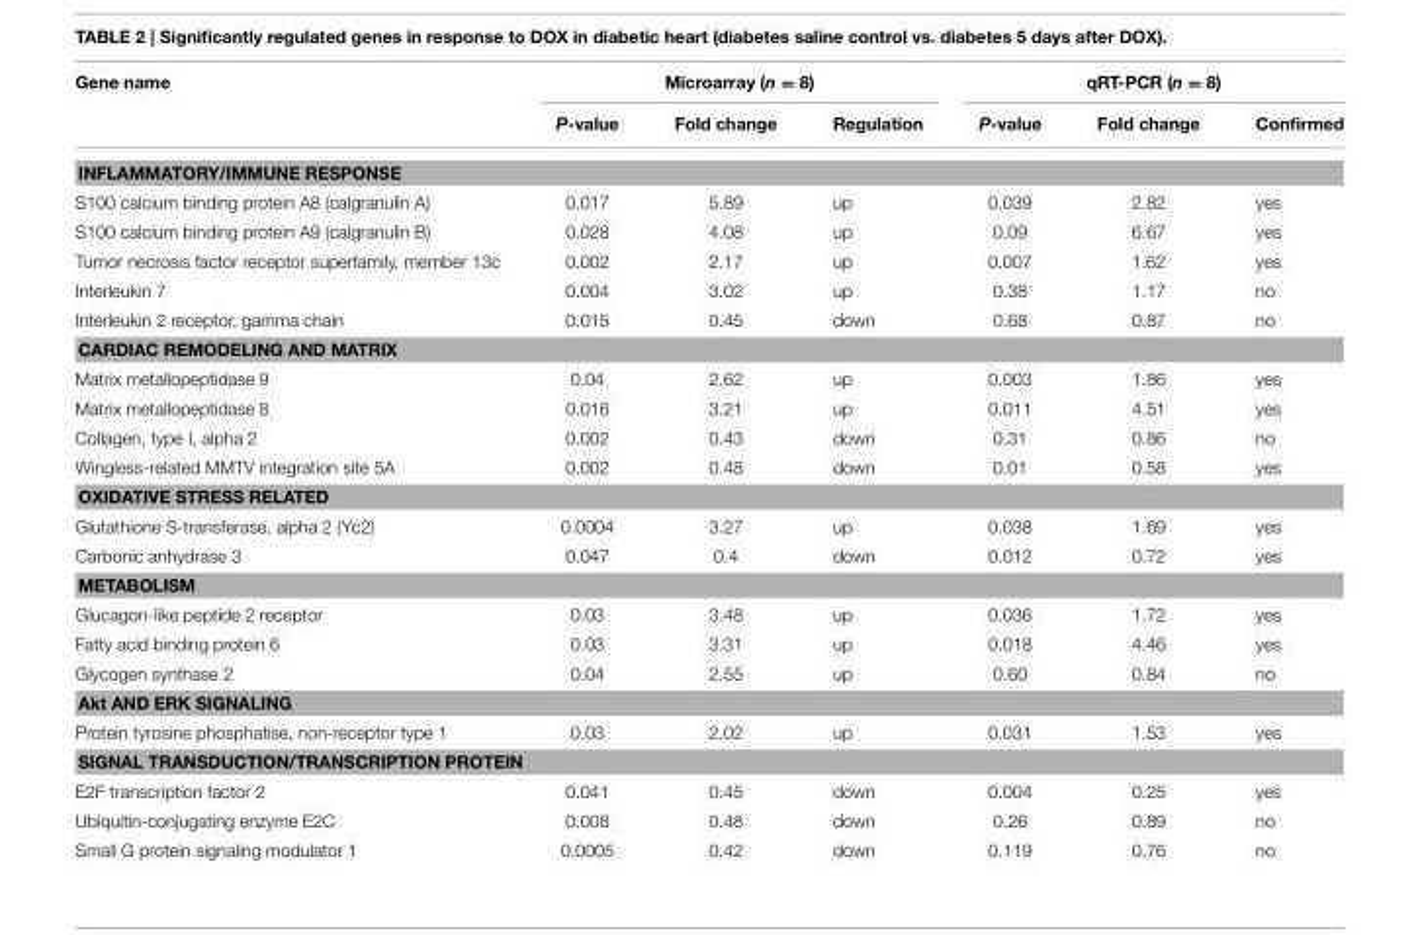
<table><thead><tr><td rowspan="2">Gene name</td><td colspan="3">Microarray (n = 8)</td><td colspan="3">qRT-PCR (n = 8)</td></tr><tr><td>P-value</td><td>Fold change</td><td>Regulation</td><td>P-value</td><td>Fold change</td><td>Confirmed</td></tr></thead><tbody><tr><td colspan="7">INFLAMMATORY/IMMUNE RESPONSE</td></tr><tr><td>S100 calcium binding protein A8 (calgranulin A)</td><td>0.017</td><td>5.89</td><td>up</td><td>0.039</td><td>2.82</td><td>yes</td></tr><tr><td>S100 calcium binding protein A9 (calgranulin B)</td><td>0.028</td><td>4.08</td><td>up</td><td>0.09</td><td>6.67</td><td>yes</td></tr><tr><td>Tumor necrosis factor receptor superfamily, member 13c</td><td>0.002</td><td>2.17</td><td>up</td><td>0.007</td><td>1.62</td><td>yes</td></tr><tr><td>Interleukin 7</td><td>0.004</td><td>3.02</td><td>up</td><td>0.38</td><td>1.17</td><td>no</td></tr><tr><td>Interleukin 2 receptor, gamma chain</td><td>0.015</td><td>0.45</td><td>down</td><td>0.68</td><td>0.87</td><td>no</td></tr><tr><td colspan="7">CARDIAC REMODELING AND MATRIX</td></tr><tr><td>Matrix metallopeptidase 9</td><td>0.04</td><td>2.62</td><td>up</td><td>0.003</td><td>1.86</td><td>yes</td></tr><tr><td>Matrix metallopeptidase 8</td><td>0.016</td><td>3.21</td><td>up</td><td>0.011</td><td>4.51</td><td>yes</td></tr><tr><td>Collagen, type I, alpha 2</td><td>0.002</td><td>0.43</td><td>down</td><td>0.31</td><td>0.86</td><td>no</td></tr><tr><td>Wingless-related MMTV integration site 5A</td><td>0.002</td><td>0.48</td><td>down</td><td>0.01</td><td>0.58</td><td>yes</td></tr><tr><td colspan="7">OXIDATIVE STRESS RELATED</td></tr><tr><td>Glutathione S-transferase, alpha 2 (Yc2)</td><td>0.0004</td><td>3.27</td><td>up</td><td>0.038</td><td>1.69</td><td>yes</td></tr><tr><td>Carbonic anhydrase 3</td><td>0.047</td><td>0.4</td><td>down</td><td>0.012</td><td>0.72</td><td>yes</td></tr><tr><td colspan="7">METABOLISM</td></tr><tr><td>Glucagon-like peptide 2 receptor</td><td>0.03</td><td>3.48</td><td>up</td><td>0.036</td><td>1.72</td><td>yes</td></tr><tr><td>Fatty acid binding protein 6</td><td>0.03</td><td>3.31</td><td>up</td><td>0.018</td><td>4.46</td><td>yes</td></tr><tr><td>Glycogen synthase 2</td><td>0.04</td><td>2.55</td><td>up</td><td>0.60</td><td>0.84</td><td>no</td></tr><tr><td colspan="7">Akt AND ERK SIGNALING</td></tr><tr><td>Protein tyrosine phosphatise, non-receptor type 1</td><td>0.03</td><td>2.02</td><td>up</td><td>0.031</td><td>1.53</td><td>yes</td></tr><tr><td colspan="7">SIGNAL TRANSDUCTION/TRANSCRIPTION PROTEIN</td></tr><tr><td>E2F transcription factor 2</td><td>0.041</td><td>0.45</td><td>down</td><td>0.004</td><td>0.25</td><td>yes</td></tr><tr><td>Ubiquitin-conjugating enzyme E2C</td><td>0.008</td><td>0.48</td><td>down</td><td>0.26</td><td>0.89</td><td>no</td></tr><tr><td>Small G protein signaling modulator 1</td><td>0.0005</td><td>0.42</td><td>down</td><td>0.119</td><td>0.76</td><td>no</td></tr></tbody></table>